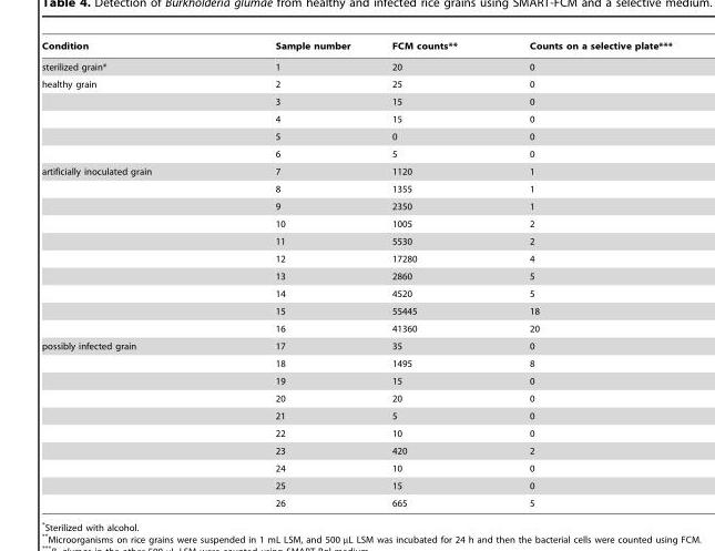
<table><thead><tr><td>Condition</td><td>Sample number</td><td>FCM counts**</td><td>Counts on a selective plate***</td></tr></thead><tbody><tr><td>sterilized grain*</td><td>1</td><td>20</td><td>0</td></tr><tr><td rowspan="5">healthy grain</td><td>2</td><td>25</td><td>0</td></tr><tr><td>3</td><td>15</td><td>0</td></tr><tr><td>4</td><td>15</td><td>0</td></tr><tr><td>5</td><td>0</td><td>0</td></tr><tr><td>6</td><td>5</td><td>0</td></tr><tr><td rowspan="10">artificially inoculated grain</td><td>7</td><td>1120</td><td>1</td></tr><tr><td>8</td><td>1355</td><td>1</td></tr><tr><td>9</td><td>2350</td><td>1</td></tr><tr><td>10</td><td>1005</td><td>2</td></tr><tr><td>11</td><td>5530</td><td>2</td></tr><tr><td>12</td><td>17280</td><td>4</td></tr><tr><td>13</td><td>2860</td><td>5</td></tr><tr><td>14</td><td>4520</td><td>5</td></tr><tr><td>15</td><td>55445</td><td>18</td></tr><tr><td>16</td><td>41360</td><td>20</td></tr><tr><td rowspan="10">possibly infected grain</td><td>17</td><td>35</td><td>0</td></tr><tr><td>18</td><td>1495</td><td>8</td></tr><tr><td>19</td><td>15</td><td>0</td></tr><tr><td>20</td><td>20</td><td>0</td></tr><tr><td>21</td><td>5</td><td>0</td></tr><tr><td>22</td><td>10</td><td>0</td></tr><tr><td>23</td><td>420</td><td>2</td></tr><tr><td>24</td><td>10</td><td>0</td></tr><tr><td>25</td><td>15</td><td>0</td></tr><tr><td>26</td><td>665</td><td>5</td></tr></tbody></table>